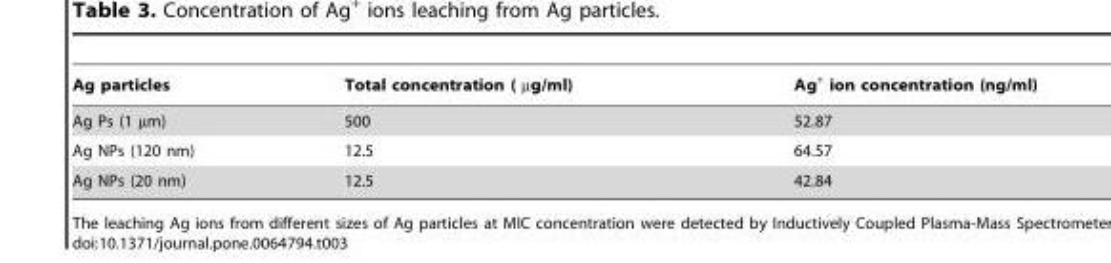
<table><thead><tr><td>Ag particles</td><td>Total concentration ( µg/ml)</td><td>Ag<sup>+</sup> ion concentration (ng/ml)</td></tr></thead><tbody><tr><td>Ag Ps (1 µm)</td><td>500</td><td>52.87</td></tr><tr><td>Ag NPs (120 nm)</td><td>12.5</td><td>64.57</td></tr><tr><td>Ag NPs (20 nm)</td><td>12.5</td><td>42.84</td></tr></tbody></table>